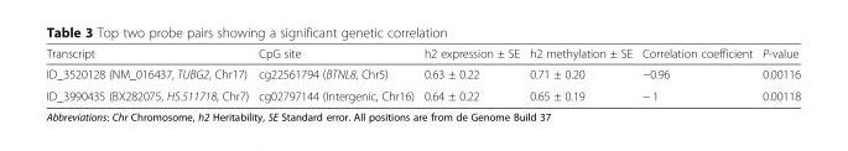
<table><thead><tr><td>Transcript</td><td>CpG site</td><td>h2 expression ± SE</td><td>h2 methylation ± SE</td><td>Correlation coefficient</td><td>P-value</td></tr></thead><tbody><tr><td>ID_3520128 (NM_016437, TUBG2, Chr17)</td><td>cg22561794 (BTNL8, Chr5)</td><td>0.63 ± 0.22</td><td>0.71 ± 0.20</td><td>−0.96</td><td>0.00116</td></tr><tr><td>ID_3990435 (BX282075, HS.511718, Chr7)</td><td>cg02797144 (Intergenic, Chr16)</td><td>0.64 ± 0.22</td><td>0.65 ± 0.19</td><td>− 1</td><td>0.00118</td></tr></tbody></table>